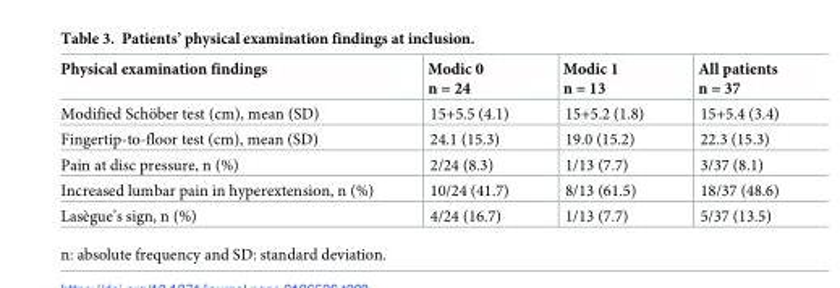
<table><thead><tr><td>Physical examination findings</td><td>Modic 0 n = 24</td><td>Modic 1 n = 13</td><td>All patients n = 37</td></tr></thead><tbody><tr><td>Modified Scho¨ber test (cm), mean (SD)</td><td>15+5.5 (4.1)</td><td>15+5.2 (1.8)</td><td>15+5.4 (3.4)</td></tr><tr><td>Fingertip-to-floor test (cm), mean (SD)</td><td>24.1 (15.3)</td><td>19.0 (15.2)</td><td>22.3 (15.3)</td></tr><tr><td>Pain at disc pressure, n (%)</td><td>2/24 (8.3)</td><td>1/13 (7.7)</td><td>3/37 (8.1)</td></tr><tr><td>Increased lumbar pain in hyperextension, n (%)</td><td>10/24 (41.7)</td><td>8/13 (61.5)</td><td>18/37 (48.6)</td></tr><tr><td>Lasègue’s sign, n (%)</td><td>4/24 (16.7)</td><td>1/13 (7.7)</td><td>5/37 (13.5)</td></tr></tbody></table>